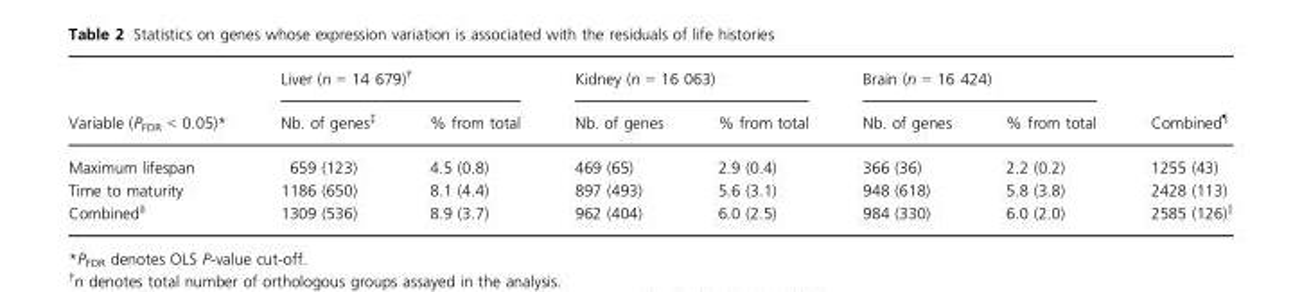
<table><thead><tr><td rowspan="2">Variable (P<sub>FDR</sub> &lt; 0.05)*</td><td colspan="2">Liver (n = 14 679)†</td><td colspan="2">Kidney (n = 16 063)</td><td colspan="2">Brain (n = 16 424)</td><td rowspan="2">Combined¶</td></tr><tr><td>Nb. of genes‡</td><td>% from total</td><td>Nb. of genes</td><td>% from total</td><td>Nb. of genes</td><td>% from total</td></tr></thead><tbody><tr><td>Maximum lifespan</td><td>659 (123)</td><td>4.5 (0.8)</td><td>469 (65)</td><td>2.9 (0.4)</td><td>366 (36)</td><td>2.2 (0.2)</td><td>1255 (43)</td></tr><tr><td>Time to maturity</td><td>1186 (650)</td><td>8.1 (4.4)</td><td>897 (493)</td><td>5.6 (3.1)</td><td>948 (618)</td><td>5.8 (3.8)</td><td>2428 (113)</td></tr><tr><td>Combined§</td><td>1309 (536)</td><td>8.9 (3.7)</td><td>962 (404)</td><td>6.0 (2.5)</td><td>984 (330)</td><td>6.0 (2.0)</td><td>2585 (126)∥</td></tr></tbody></table>